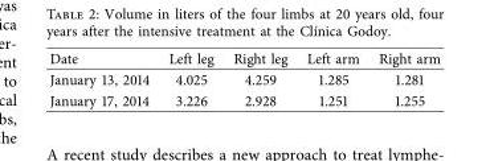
<table><thead><tr><td>Date</td><td>Left leg</td><td>Right leg</td><td>Left arm</td><td>Right arm</td></tr></thead><tbody><tr><td>January 13, 2014</td><td>4.025</td><td>4.259</td><td>1.285</td><td>1.281</td></tr><tr><td>January 17, 2014</td><td>3.226</td><td>2.928</td><td>1.251</td><td>1.255</td></tr></tbody></table>